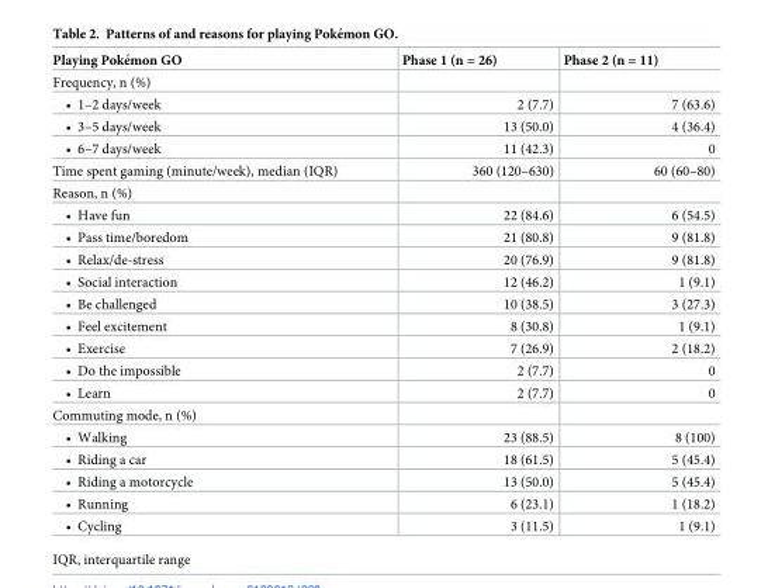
<table><thead><tr><td>Playing Poke´mon GO</td><td>Phase 1 (n = 26)</td><td>Phase 2 (n = 11)</td></tr></thead><tbody><tr><td colspan="3">Frequency, n (%)</td></tr><tr><td>• 1–2 days/week</td><td>2 (7.7)</td><td>7 (63.6)</td></tr><tr><td>• 3–5 days/week</td><td>13 (50.0)</td><td>4 (36.4)</td></tr><tr><td>• 6–7 days/week</td><td>11 (42.3)</td><td>0</td></tr><tr><td>Time spent gaming (minute/week), median (IQR)</td><td>360 (120–630)</td><td>60 (60–80)</td></tr><tr><td colspan="3">Reason, n (%)</td></tr><tr><td>• Have fun</td><td>22 (84.6)</td><td>6 (54.5)</td></tr><tr><td>• Pass time/boredom</td><td>21 (80.8)</td><td>9 (81.8)</td></tr><tr><td>• Relax/de-stress</td><td>20 (76.9)</td><td>9 (81.8)</td></tr><tr><td>• Social interaction</td><td>12 (46.2)</td><td>1 (9.1)</td></tr><tr><td>• Be challenged</td><td>10 (38.5)</td><td>3 (27.3)</td></tr><tr><td>• Feel excitement</td><td>8 (30.8)</td><td>1 (9.1)</td></tr><tr><td>• Exercise</td><td>7 (26.9)</td><td>2 (18.2)</td></tr><tr><td>• Do the impossible</td><td>2 (7.7)</td><td>0</td></tr><tr><td>• Learn</td><td>2 (7.7)</td><td>0</td></tr><tr><td colspan="3">Commuting mode, n (%)</td></tr><tr><td>• Walking</td><td>23 (88.5)</td><td>8 (100)</td></tr><tr><td>• Riding a car</td><td>18 (61.5)</td><td>5 (45.4)</td></tr><tr><td>• Riding a motorcycle</td><td>13 (50.0)</td><td>5 (45.4)</td></tr><tr><td>• Running</td><td>6 (23.1)</td><td>1 (18.2)</td></tr><tr><td>• Cycling</td><td>3 (11.5)</td><td>1 (9.1)</td></tr></tbody></table>